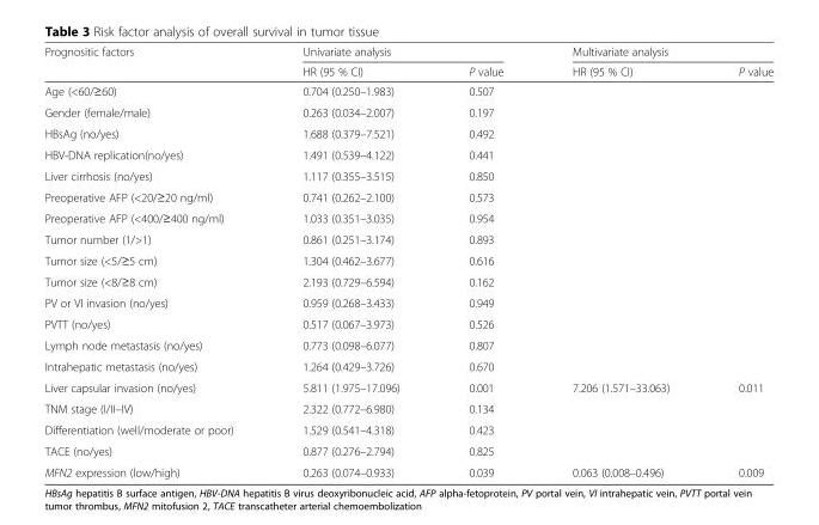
<table><thead><tr><td rowspan="2">Prognositic factors</td><td colspan="2">Univariate analysis</td><td colspan="2">Multivariate analysis</td></tr><tr><td>HR (95 % CI)</td><td>P value</td><td>HR (95 % CI)</td><td>P value</td></tr></thead><tbody><tr><td>Age (&lt;60/≥60)</td><td>0.704 (0.250–1.983)</td><td>0.507</td><td></td><td></td></tr><tr><td>Gender (female/male)</td><td>0.263 (0.034–2.007)</td><td>0.197</td><td></td><td></td></tr><tr><td>HBsAg (no/yes)</td><td>1.688 (0.379–7.521)</td><td>0.492</td><td></td><td></td></tr><tr><td>HBV-DNA replication(no/yes)</td><td>1.491 (0.539–4.122)</td><td>0.441</td><td></td><td></td></tr><tr><td>Liver cirrhosis (no/yes)</td><td>1.117 (0.355–3.515)</td><td>0.850</td><td></td><td></td></tr><tr><td>Preoperative AFP (&lt;20/≥20 ng/ml)</td><td>0.741 (0.262–2.100)</td><td>0.573</td><td></td><td></td></tr><tr><td>Preoperative AFP (&lt;400/≥400 ng/ml)</td><td>1.033 (0.351–3.035)</td><td>0.954</td><td></td><td></td></tr><tr><td>Tumor number (1/&gt;1)</td><td>0.861 (0.251–3.174)</td><td>0.893</td><td></td><td></td></tr><tr><td>Tumor size (&lt;5/≥5 cm)</td><td>1.304 (0.462–3.677)</td><td>0.616</td><td></td><td></td></tr><tr><td>Tumor size (&lt;8/≥8 cm)</td><td>2.193 (0.729–6.594)</td><td>0.162</td><td></td><td></td></tr><tr><td>PV or VI invasion (no/yes)</td><td>0.959 (0.268–3.433)</td><td>0.949</td><td></td><td></td></tr><tr><td>PVTT (no/yes)</td><td>0.517 (0.067–3.973)</td><td>0.526</td><td></td><td></td></tr><tr><td>Lymph node metastasis (no/yes)</td><td>0.773 (0.098–6.077)</td><td>0.807</td><td></td><td></td></tr><tr><td>Intrahepatic metastasis (no/yes)</td><td>1.264 (0.429–3.726)</td><td>0.670</td><td></td><td></td></tr><tr><td>Liver capsular invasion (no/yes)</td><td>5.811 (1.975–17.096)</td><td>0.001</td><td>7.206 (1.571–33.063)</td><td>0.011</td></tr><tr><td>TNM stage (I/II–IV)</td><td>2.322 (0.772–6.980)</td><td>0.134</td><td></td><td></td></tr><tr><td>Differentiation (well/moderate or poor)</td><td>1.529 (0.541–4.318)</td><td>0.423</td><td></td><td></td></tr><tr><td>TACE (no/yes)</td><td>0.877 (0.276–2.794)</td><td>0.825</td><td></td><td></td></tr><tr><td>MFN2 expression (low/high)</td><td>0.263 (0.074–0.933)</td><td>0.039</td><td>0.063 (0.008–0.496)</td><td>0.009</td></tr></tbody></table>